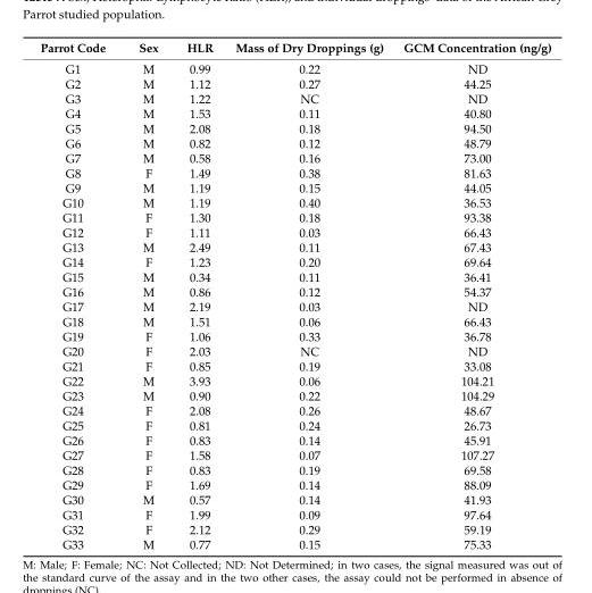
<table><thead><tr><td>Parrot Code</td><td>Sex</td><td>HLR</td><td>Mass of Dry Droppings (g)</td><td>GCM Concentration (ng/g)</td></tr></thead><tbody><tr><td>G1</td><td>M</td><td>0.99</td><td>0.22</td><td>ND</td></tr><tr><td>G2</td><td>M</td><td>1.12</td><td>0.27</td><td>44.25</td></tr><tr><td>G3</td><td>M</td><td>1.22</td><td>NC</td><td>ND</td></tr><tr><td>G4</td><td>M</td><td>1.53</td><td>0.11</td><td>40.80</td></tr><tr><td>G5</td><td>M</td><td>2.08</td><td>0.18</td><td>94.50</td></tr><tr><td>G6</td><td>M</td><td>0.82</td><td>0.12</td><td>48.79</td></tr><tr><td>G7</td><td>M</td><td>0.58</td><td>0.16</td><td>73.00</td></tr><tr><td>G8</td><td>F</td><td>1.49</td><td>0.38</td><td>81.63</td></tr><tr><td>G9</td><td>M</td><td>1.19</td><td>0.15</td><td>44.05</td></tr><tr><td>G10</td><td>M</td><td>1.19</td><td>0.40</td><td>36.53</td></tr><tr><td>G11</td><td>F</td><td>1.30</td><td>0.18</td><td>93.38</td></tr><tr><td>G12</td><td>F</td><td>1.11</td><td>0.03</td><td>66.43</td></tr><tr><td>G13</td><td>M</td><td>2.49</td><td>0.11</td><td>67.43</td></tr><tr><td>G14</td><td>F</td><td>1.23</td><td>0.20</td><td>69.64</td></tr><tr><td>G15</td><td>M</td><td>0.34</td><td>0.11</td><td>36.41</td></tr><tr><td>G16</td><td>M</td><td>0.86</td><td>0.12</td><td>54.37</td></tr><tr><td>G17</td><td>M</td><td>2.19</td><td>0.03</td><td>ND</td></tr><tr><td>G18</td><td>M</td><td>1.51</td><td>0.06</td><td>66.43</td></tr><tr><td>G19</td><td>F</td><td>1.06</td><td>0.33</td><td>36.78</td></tr><tr><td>G20</td><td>F</td><td>2.03</td><td>NC</td><td>ND</td></tr><tr><td>G21</td><td>F</td><td>0.85</td><td>0.19</td><td>33.08</td></tr><tr><td>G22</td><td>M</td><td>3.93</td><td>0.06</td><td>104.21</td></tr><tr><td>G23</td><td>M</td><td>0.90</td><td>0.22</td><td>104.29</td></tr><tr><td>G24</td><td>F</td><td>2.08</td><td>0.26</td><td>48.67</td></tr><tr><td>G25</td><td>F</td><td>0.81</td><td>0.24</td><td>26.73</td></tr><tr><td>G26</td><td>F</td><td>0.83</td><td>0.14</td><td>45.91</td></tr><tr><td>G27</td><td>F</td><td>1.58</td><td>0.07</td><td>107.27</td></tr><tr><td>G28</td><td>F</td><td>0.83</td><td>0.19</td><td>69.58</td></tr><tr><td>G29</td><td>F</td><td>1.69</td><td>0.14</td><td>88.09</td></tr><tr><td>G30</td><td>M</td><td>0.57</td><td>0.14</td><td>41.93</td></tr><tr><td>G31</td><td>F</td><td>1.99</td><td>0.09</td><td>97.64</td></tr><tr><td>G32</td><td>F</td><td>2.12</td><td>0.29</td><td>59.19</td></tr><tr><td>G33</td><td>M</td><td>0.77</td><td>0.15</td><td>75.33</td></tr></tbody></table>